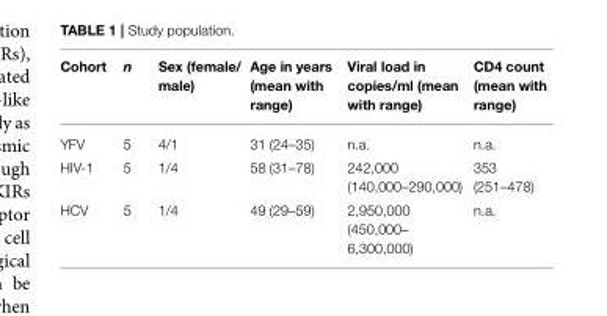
<table><thead><tr><td>Cohort</td><td>n</td><td>Sex (female/ male)</td><td>Age in years (mean with range)</td><td>Viral load in copies/ml (mean with range)</td><td>CD4 count (mean with range)</td></tr></thead><tbody><tr><td>YFV</td><td>5</td><td>4/1</td><td>31 (24–35)</td><td>n.a.</td><td>n.a.</td></tr><tr><td>HIV-1</td><td>5</td><td>1/4</td><td>58 (31–78)</td><td>242,000 (140,000–290,000)</td><td>353 (251–478)</td></tr><tr><td>HCV</td><td>5</td><td>1/4</td><td>49 (29–59)</td><td>2,950,000 (450,000– 6,300,000)</td><td>n.a.</td></tr></tbody></table>